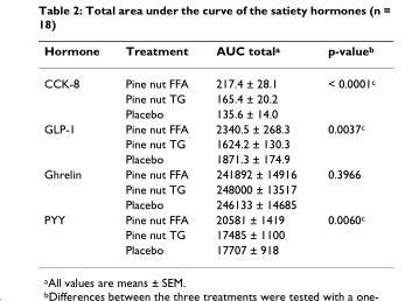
<table><thead><tr><td>Hormone</td><td>Treatment</td><td>AUC total<sup>a</sup></td><td>p-value<sup>b</sup></td></tr></thead><tbody><tr><td rowspan="3">CCK-8</td><td>Pine nut FFA</td><td>217.4 ± 28.1</td><td>&lt; 0.0001<sup>c</sup></td></tr><tr><td>Pine nut TG</td><td>165.4 ± 20.2</td><td></td></tr><tr><td>Placebo</td><td>135.6 ± 14.0</td><td></td></tr><tr><td rowspan="3">GLP-1</td><td>Pine nut FFA</td><td>2340.5 ± 268.3</td><td>0.0037<sup>c</sup></td></tr><tr><td>Pine nut TG</td><td>1624.2 ± 130.3</td><td></td></tr><tr><td>Placebo</td><td>1871.3 ± 174.9</td><td></td></tr><tr><td rowspan="3">Ghrelin</td><td>Pine nut FFA</td><td>241892 ± 14916</td><td>0.3966</td></tr><tr><td>Pine nut TG</td><td>248000 ± 13517</td><td></td></tr><tr><td>Placebo</td><td>246133 ± 14685</td><td></td></tr><tr><td rowspan="3">PYY</td><td>Pine nut FFA</td><td>20581 ± 1419</td><td>0.0060<sup>c</sup></td></tr><tr><td>Pine nut TG</td><td>17485 ± 1100</td><td></td></tr><tr><td>Placebo</td><td>17707 ± 918</td><td></td></tr></tbody></table>